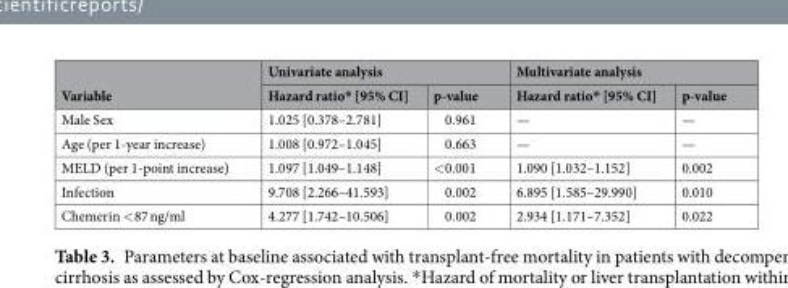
<table><thead><tr><td rowspan="2">Variable</td><td colspan="2">Univariate analysis</td><td colspan="2">Multivariate analysis</td></tr><tr><td>Hazard ratio* [95% CI]</td><td>p-value</td><td>Hazard ratio* [95% CI]</td><td>p-value</td></tr></thead><tbody><tr><td>Male Sex</td><td>1.025 [0.378–2.781]</td><td>0.961</td><td>—</td><td>—</td></tr><tr><td>Age (per 1-year increase)</td><td>1.008 [0.972–1.045]</td><td>0.663</td><td>—</td><td>—</td></tr><tr><td>MELD (per 1-point increase)</td><td>1.097 [1.049–1.148]</td><td>&lt;0.001</td><td>1.090 [1.032–1.152]</td><td>0.002</td></tr><tr><td>Infection</td><td>9.708 [2.266–41.593]</td><td>0.002</td><td>6.895 [1.585–29.990]</td><td>0.010</td></tr><tr><td>Chemerin &lt;87 ng/ml</td><td>4.277 [1.742–10.506]</td><td>0.002</td><td>2.934 [1.171–7.352]</td><td>0.022</td></tr></tbody></table>